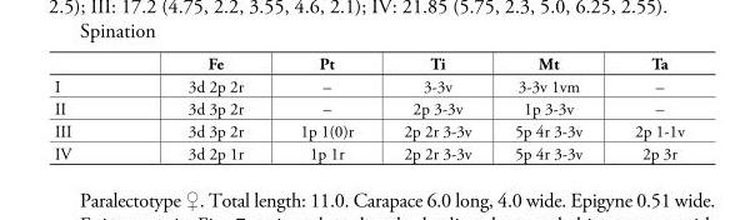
<table><thead><tr><td></td><td>Fe</td><td>Pt</td><td>Ti</td><td>Mt</td><td>Ta</td></tr></thead><tbody><tr><td>I</td><td>3d 2p 2r</td><td>–</td><td>3-3v</td><td>3-3v 1vm</td><td>–</td></tr><tr><td>II</td><td>3d 3p 2r</td><td>–</td><td>2p 3-3v</td><td>1p 3-3v</td><td>–</td></tr><tr><td>III</td><td>3d 3p 2r</td><td>1p 1(0)r</td><td>2p 2r 3-3v</td><td>5p 4r 3-3v</td><td>2p 1-1v</td></tr><tr><td>IV</td><td>3d 2p 1r</td><td>1p 1r</td><td>2p 2r 3-3v</td><td>5p 4r 3-3v</td><td>2p 3r</td></tr></tbody></table>